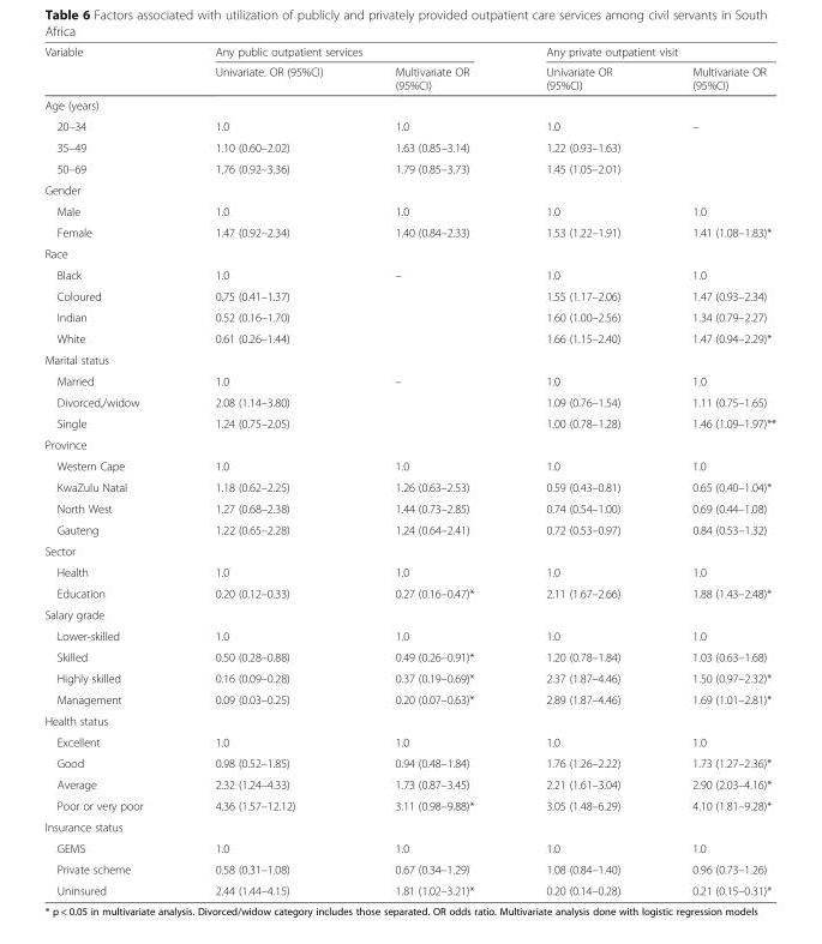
<table><thead><tr><td rowspan="2">Variable</td><td colspan="2">Any public outpatient services</td><td colspan="2">Any private outpatient visit</td></tr><tr><td>Univariate. OR (95%CI)</td><td>Multivariate OR (95%CI)</td><td>Univariate OR (95%CI)</td><td>Multivariate OR (95%CI)</td></tr></thead><tbody><tr><td colspan="5">Age (years)</td></tr><tr><td>20–34</td><td>1.0</td><td>1.0</td><td>1.0</td><td>–</td></tr><tr><td>35–49</td><td>1.10 (0.60–2.02)</td><td>1.63 (0.85–3.14)</td><td>1.22 (0.93–1.63)</td><td></td></tr><tr><td>50–69</td><td>1.76 (0.92–3.36)</td><td>1.79 (0.85–3.73)</td><td>1.45 (1.05–2.01)</td><td></td></tr><tr><td colspan="5">Gender</td></tr><tr><td>Male</td><td>1.0</td><td>1.0</td><td>1.0</td><td>1.0</td></tr><tr><td>Female</td><td>1.47 (0.92–2.34)</td><td>1.40 (0.84–2.33)</td><td>1.53 (1.22–1.91)</td><td>1.41 (1.08–1.83)*</td></tr><tr><td colspan="5">Race</td></tr><tr><td>Black</td><td>1.0</td><td>–</td><td>1.0</td><td>1.0</td></tr><tr><td>Coloured</td><td>0.75 (0.41–1.37)</td><td></td><td>1.55 (1.17–2.06)</td><td>1.47 (0.93–2.34)</td></tr><tr><td>Indian</td><td>0.52 (0.16–1.70)</td><td></td><td>1.60 (1.00–2.56)</td><td>1.34 (0.79–2.27)</td></tr><tr><td>White</td><td>0.61 (0.26–1.44)</td><td></td><td>1.66 (1.15–2.40)</td><td>1.47 (0.94–2.29)*</td></tr><tr><td colspan="5">Marital status</td></tr><tr><td>Married</td><td>1.0</td><td>–</td><td>1.0</td><td>1.0</td></tr><tr><td>Divorced,/widow</td><td>2.08 (1.14–3.80)</td><td></td><td>1.09 (0.76–1.54)</td><td>1.11 (0.75–1.65)</td></tr><tr><td>Single</td><td>1.24 (0.75–2.05)</td><td></td><td>1.00 (0.78–1.28)</td><td>1.46 (1.09–1.97)**</td></tr><tr><td colspan="5">Province</td></tr><tr><td>Western Cape</td><td>1.0</td><td>1.0</td><td>1.0</td><td>1.0</td></tr><tr><td>KwaZulu Natal</td><td>1.18 (0.62–2.25)</td><td>1.26 (0.63–2.53)</td><td>0.59 (0.43–0.81)</td><td>0.65 (0.40–1.04)*</td></tr><tr><td>North West</td><td>1.27 (0.68–2.38)</td><td>1.44 (0.73–2.85)</td><td>0.74 (0.54–1.00)</td><td>0.69 (0.44–1.08)</td></tr><tr><td>Gauteng</td><td>1.22 (0.65–2.28)</td><td>1.24 (0.64–2.41)</td><td>0.72 (0.53–0.97)</td><td>0.84 (0.53–1.32)</td></tr><tr><td colspan="5">Sector</td></tr><tr><td>Health</td><td>1.0</td><td>1.0</td><td>1.0</td><td>1.0</td></tr><tr><td>Education</td><td>0.20 (0.12–0.33)</td><td>0.27 (0.16–0.47)*</td><td>2.11 (1.67–2.66)</td><td>1.88 (1.43–2.48)*</td></tr><tr><td colspan="5">Salary grade</td></tr><tr><td>Lower-skilled</td><td>1.0</td><td>1.0</td><td>1.0</td><td>1.0</td></tr><tr><td>Skilled</td><td>0.50 (0.28–0.88)</td><td>0.49 (0.26–0.91)*</td><td>1.20 (0.78–1.84)</td><td>1.03 (0.63–1.68)</td></tr><tr><td>Highly skilled</td><td>0.16 (0.09–0.28)</td><td>0.37 (0.19–0.69)*</td><td>2.37 (1.87–4.46)</td><td>1.50 (0.97–2.32)*</td></tr><tr><td>Management</td><td>0.09 (0.03–0.25)</td><td>0.20 (0.07–0.63)*</td><td>2.89 (1.87–4.46)</td><td>1.69 (1.01–2.81)*</td></tr><tr><td colspan="5">Health status</td></tr><tr><td>Excellent</td><td>1.0</td><td>1.0</td><td>1.0</td><td>1.0</td></tr><tr><td>Good</td><td>0.98 (0.52–1.85)</td><td>0.94 (0.48–1.84)</td><td>1.76 (1.26–2.22)</td><td>1.73 (1.27–2.36)*</td></tr><tr><td>Average</td><td>2.32 (1.24–4.33)</td><td>1.73 (0.87–3.45)</td><td>2.21 (1.61–3.04)</td><td>2.90 (2.03–4.16)*</td></tr><tr><td>Poor or very poor</td><td>4.36 (1.57–12.12)</td><td>3.11 (0.98–9.88)*</td><td>3.05 (1.48–6.29)</td><td>4.10 (1.81–9.28)*</td></tr><tr><td colspan="5">Insurance status</td></tr><tr><td>GEMS</td><td>1.0</td><td>1.0</td><td>1.0</td><td>1.0</td></tr><tr><td>Private scheme</td><td>0.58 (0.31–1.08)</td><td>0.67 (0.34–1.29)</td><td>1.08 (0.84–1.40)</td><td>0.96 (0.73–1.26)</td></tr><tr><td>Uninsured</td><td>2.44 (1.44–4.15)</td><td>1.81 (1.02–3.21)*</td><td>0.20 (0.14–0.28)</td><td>0.21 (0.15–0.31)*</td></tr></tbody></table>